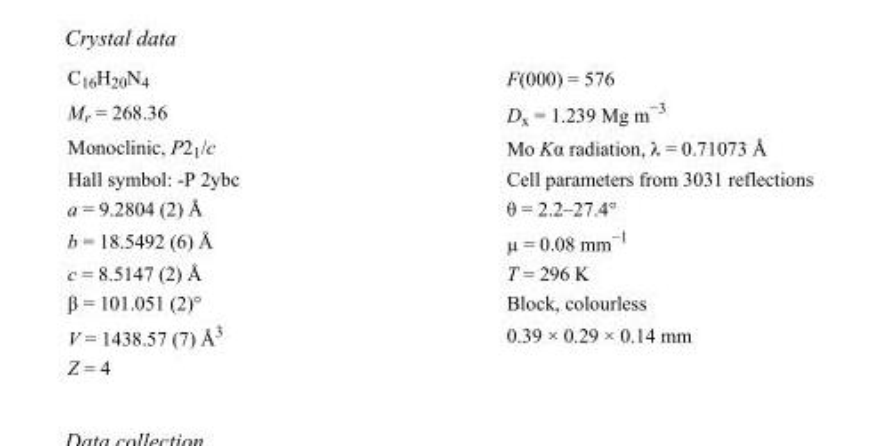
<table><tbody><tr><td>C<sub>16</sub>H<sub>20</sub>N<sub>4</sub></td><td>F(000) = 576</td></tr><tr><td>M<sub>r</sub> = 268.36</td><td>D<sub>x</sub> = 1.239 Mg m<sup>−3</sup></td></tr><tr><td>Monoclinic, P2<sub>1</sub>/c</td><td>Mo Kα radiation, λ = 0.71073 Å</td></tr><tr><td>Hall symbol: -P 2ybc</td><td>Cell parameters from 3031 reflections</td></tr><tr><td>a = 9.2804 (2) Å</td><td>θ = 2.2–27.4°</td></tr><tr><td>b = 18.5492 (6) Å</td><td>µ = 0.08 mm<sup>−1</sup></td></tr><tr><td>c = 8.5147 (2) Å</td><td>T = 296 K</td></tr><tr><td>β = 101.051 (2)°</td><td>Block, colourless</td></tr><tr><td>V = 1438.57 (7) Å<sup>3</sup></td><td>0.39 × 0.29 × 0.14 mm</td></tr><tr><td>Z = 4</td><td></td></tr></tbody></table>